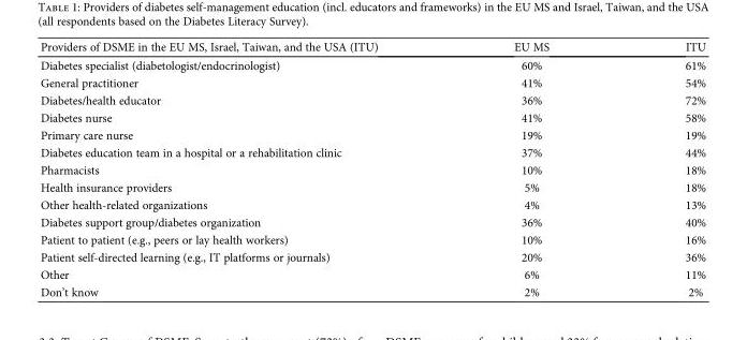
<table><thead><tr><td>Providers of DSME in the EU MS, Israel, Taiwan, and the USA (ITU)</td><td>EU MS</td><td>ITU</td></tr></thead><tbody><tr><td>Diabetes specialist (diabetologist/endocrinologist)</td><td>60%</td><td>61%</td></tr><tr><td>General practitioner</td><td>41%</td><td>54%</td></tr><tr><td>Diabetes/health educator</td><td>36%</td><td>72%</td></tr><tr><td>Diabetes nurse</td><td>41%</td><td>58%</td></tr><tr><td>Primary care nurse</td><td>19%</td><td>19%</td></tr><tr><td>Diabetes education team in a hospital or a rehabilitation clinic</td><td>37%</td><td>44%</td></tr><tr><td>Pharmacists</td><td>10%</td><td>18%</td></tr><tr><td>Health insurance providers</td><td>5%</td><td>18%</td></tr><tr><td>Other health-related organizations</td><td>4%</td><td>13%</td></tr><tr><td>Diabetes support group/diabetes organization</td><td>36%</td><td>40%</td></tr><tr><td>Patient to patient (e.g., peers or lay health workers)</td><td>10%</td><td>16%</td></tr><tr><td>Patient self-directed learning (e.g., IT platforms or journals)</td><td>20%</td><td>36%</td></tr><tr><td>Other</td><td>6%</td><td>11%</td></tr><tr><td>Don’t know</td><td>2%</td><td>2%</td></tr></tbody></table>